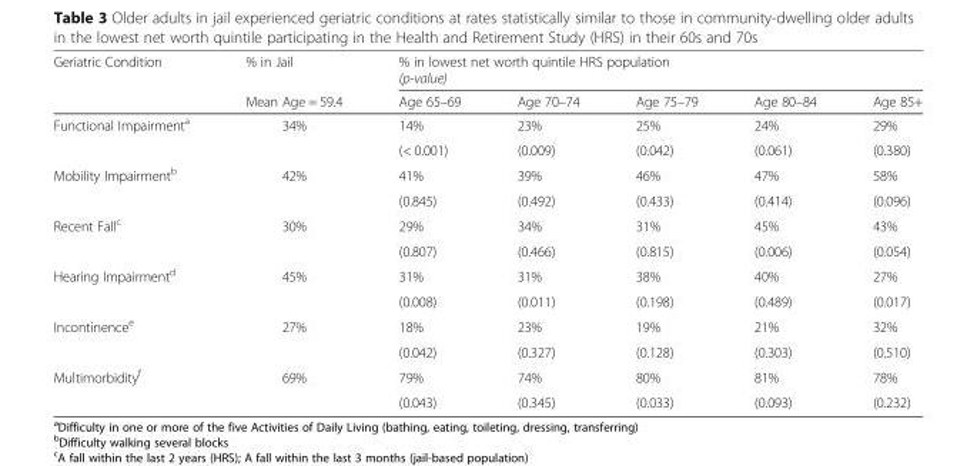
<table><thead><tr><td rowspan="2">Geriatric Condition</td><td rowspan="2">% in Jail Mean Age = 59.4</td><td colspan="5">% in lowest net worth quintile HRS population (p-value)</td></tr><tr><td>Age 65–69</td><td>Age 70–74</td><td>Age 75–79</td><td>Age 80–84</td><td>Age 85+</td></tr></thead><tbody><tr><td rowspan="2">Functional Impairment<sup>a</sup></td><td rowspan="2">34%</td><td>14%</td><td>23%</td><td>25%</td><td>24%</td><td>29%</td></tr><tr><td>(&lt; 0.001)</td><td>(0.009)</td><td>(0.042)</td><td>(0.061)</td><td>(0.380)</td></tr><tr><td rowspan="2">Mobility Impairment<sup>b</sup></td><td rowspan="2">42%</td><td>41%</td><td>39%</td><td>46%</td><td>47%</td><td>58%</td></tr><tr><td>(0.845)</td><td>(0.492)</td><td>(0.433)</td><td>(0.414)</td><td>(0.096)</td></tr><tr><td rowspan="2">Recent Fall<sup>c</sup></td><td rowspan="2">30%</td><td>29%</td><td>34%</td><td>31%</td><td>45%</td><td>43%</td></tr><tr><td>(0.807)</td><td>(0.466)</td><td>(0.815)</td><td>(0.006)</td><td>(0.054)</td></tr><tr><td rowspan="2">Hearing Impairment<sup>d</sup></td><td rowspan="2">45%</td><td>31%</td><td>31%</td><td>38%</td><td>40%</td><td>27%</td></tr><tr><td>(0.008)</td><td>(0.011)</td><td>(0.198)</td><td>(0.489)</td><td>(0.017)</td></tr><tr><td rowspan="2">Incontinence<sup>e</sup></td><td rowspan="2">27%</td><td>18%</td><td>23%</td><td>19%</td><td>21%</td><td>32%</td></tr><tr><td>(0.042)</td><td>(0.327)</td><td>(0.128)</td><td>(0.303)</td><td>(0.510)</td></tr><tr><td rowspan="2">Multimorbidity<sup>f</sup></td><td rowspan="2">69%</td><td>79%</td><td>74%</td><td>80%</td><td>81%</td><td>78%</td></tr><tr><td>(0.043)</td><td>(0.345)</td><td>(0.033)</td><td>(0.093)</td><td>(0.232)</td></tr></tbody></table>